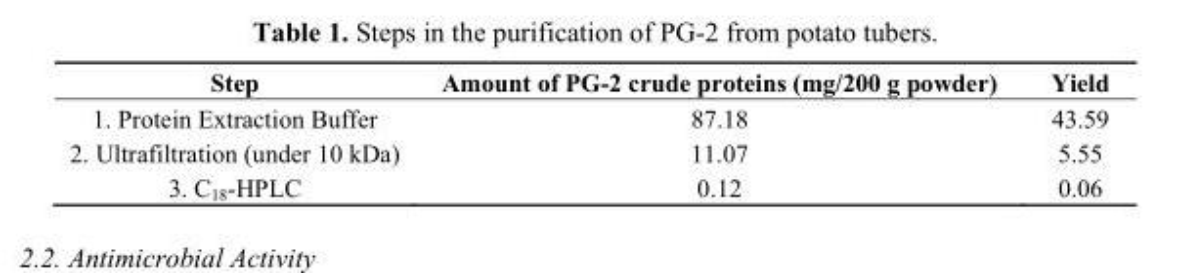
<table><thead><tr><td>Step</td><td>Amount of PG-2 crude proteins (mg/200 g powder)</td><td>Yield</td></tr></thead><tbody><tr><td>1. Protein Extraction Buffer</td><td>87.18</td><td>43.59</td></tr><tr><td>2. Ultrafiltration (under 10 kDa)</td><td>11.07</td><td>5.55</td></tr><tr><td>3. C<sub>18</sub>-HPLC</td><td>0.12</td><td>0.06</td></tr></tbody></table>